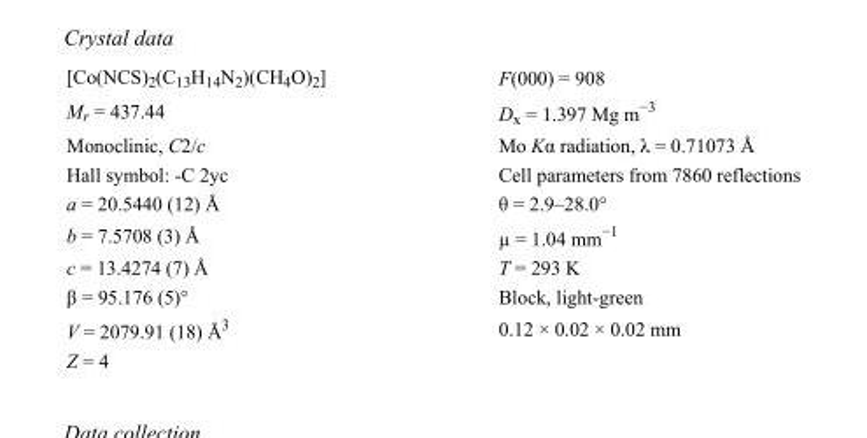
<table><tbody><tr><td>[Co(NCS)<sub>2</sub>(C<sub>13</sub>H<sub>14</sub>N<sub>2</sub>)(CH<sub>4</sub>O)<sub>2</sub>]</td><td>F(000) = 908</td></tr><tr><td>M<sub>r</sub> = 437.44</td><td>D<sub>x</sub> = 1.397 Mg m<sup>−3</sup></td></tr><tr><td>Monoclinic, C2/c</td><td>Mo Kα radiation, λ = 0.71073 Å</td></tr><tr><td>Hall symbol: -C 2yc</td><td>Cell parameters from 7860 reflections</td></tr><tr><td>a = 20.5440 (12) Å</td><td>θ = 2.9–28.0°</td></tr><tr><td>b = 7.5708 (3) Å</td><td>µ = 1.04 mm<sup>−1</sup></td></tr><tr><td>c = 13.4274 (7) Å</td><td>T = 293 K</td></tr><tr><td>β = 95.176 (5)°</td><td>Block, light-green</td></tr><tr><td>V = 2079.91 (18) Å<sup>3</sup></td><td>0.12 × 0.02 × 0.02 mm</td></tr><tr><td>Z = 4</td><td></td></tr></tbody></table>